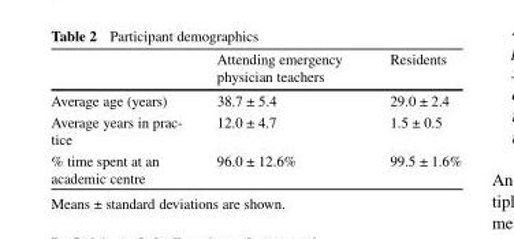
<table><thead><tr><td></td><td>Attending emergency physician teachers</td><td>Residents</td></tr></thead><tbody><tr><td>Average age (years)</td><td>38.7 ± 5.4</td><td>29.0 ± 2.4</td></tr><tr><td>Average years in prac- tice</td><td>12.0 ± 4.7</td><td>1.5 ± 0.5</td></tr><tr><td>% time spent at an academic centre</td><td>96.0 ± 12.6%</td><td>99.5 ± 1.6%</td></tr></tbody></table>